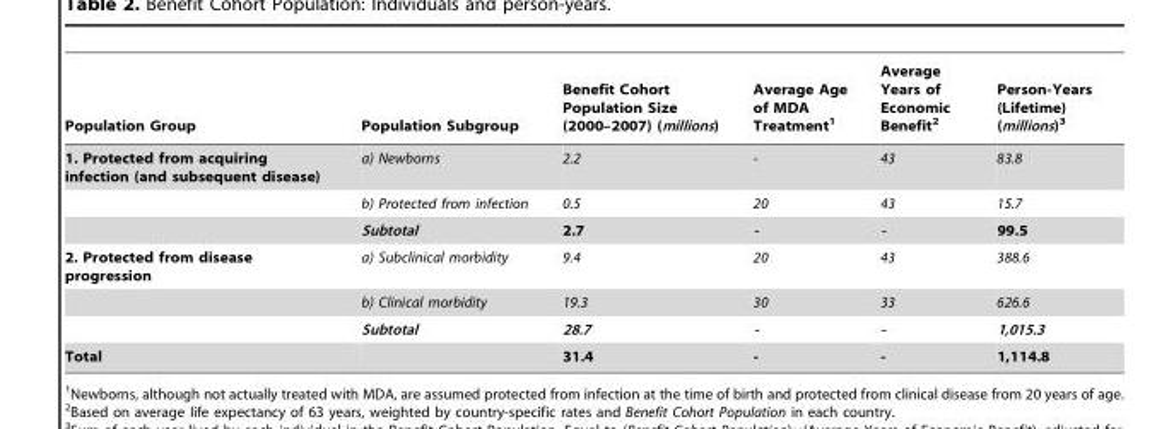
<table><thead><tr><td>Population Group</td><td>Population Subgroup</td><td>Benefit Cohort Population Size (2000–2007) (millions)</td><td>Average Age of MDA Treatment<sup>1</sup></td><td>Average Years of Economic Benefit<sup>2</sup></td><td>Person-Years (Lifetime) (millions)<sup>3</sup></td></tr></thead><tbody><tr><td rowspan="3">1. Protected from acquiring infection (and subsequent disease)</td><td>a) Newborns</td><td>2.2</td><td>-</td><td>43</td><td>83.8</td></tr><tr><td>b) Protected from infection</td><td>0.5</td><td>20</td><td>43</td><td>15.7</td></tr><tr><td>Subtotal</td><td>2.7</td><td>-</td><td>-</td><td>99.5</td></tr><tr><td rowspan="3">2. Protected from disease progression</td><td>a) Subclinical morbidity</td><td>9.4</td><td>20</td><td>43</td><td>388.6</td></tr><tr><td>b) Clinical morbidity</td><td>19.3</td><td>30</td><td>33</td><td>626.6</td></tr><tr><td>Subtotal</td><td>28.7</td><td>-</td><td>-</td><td>1,015.3</td></tr><tr><td>Total</td><td></td><td>31.4</td><td>-</td><td>-</td><td>1,114.8</td></tr></tbody></table>